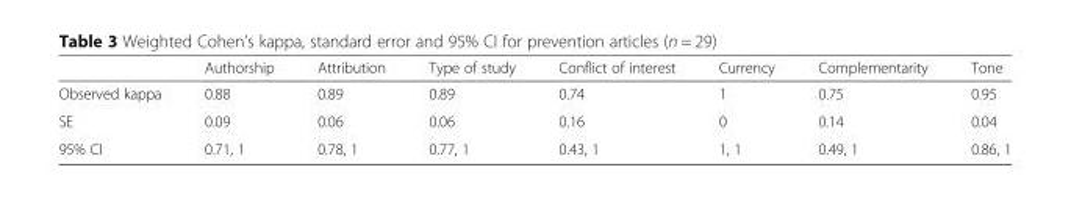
<table><thead><tr><td></td><td>Authorship</td><td>Attribution</td><td>Type of study</td><td>Conflict of interest</td><td>Currency</td><td>Complementarity</td><td>Tone</td></tr></thead><tbody><tr><td>Observed kappa</td><td>0.88</td><td>0.89</td><td>0.89</td><td>0.74</td><td>1</td><td>0.75</td><td>0.95</td></tr><tr><td>SE</td><td>0.09</td><td>0.06</td><td>0.06</td><td>0.16</td><td>0</td><td>0.14</td><td>0.04</td></tr><tr><td>95% CI</td><td>0.71, 1</td><td>0.78, 1</td><td>0.77, 1</td><td>0.43, 1</td><td>1, 1</td><td>0.49, 1</td><td>0.86, 1</td></tr></tbody></table>